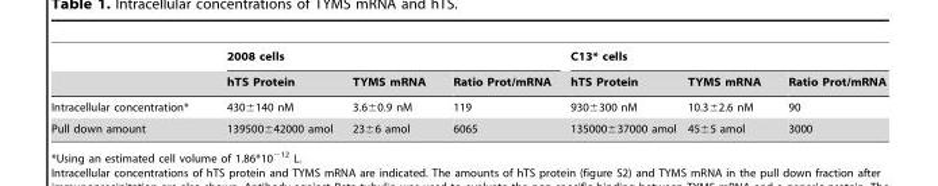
<table><thead><tr><td rowspan="2"></td><td colspan="3">2008 cells</td><td colspan="3">C13* cells</td></tr><tr><td>hTS Protein</td><td>TYMS mRNA</td><td>Ratio Prot/mRNA</td><td>hTS Protein</td><td>TYMS mRNA</td><td>Ratio Prot/mRNA</td></tr></thead><tbody><tr><td>Intracellular concentration*</td><td>430±140 nM</td><td>3.6±0.9 nM</td><td>119</td><td>930±300 nM</td><td>10.3±2.6 nM</td><td>90</td></tr><tr><td>Pull down amount</td><td>139500±42000 amol</td><td>23±6 amol</td><td>6065</td><td>135000±37000 amol</td><td>45±5 amol</td><td>3000</td></tr></tbody></table>